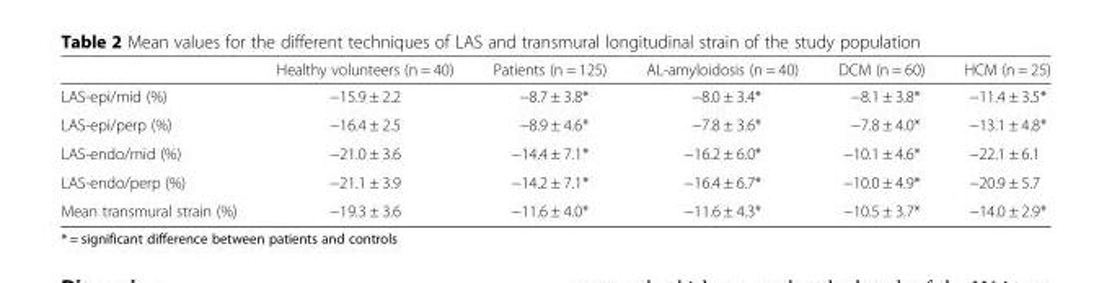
<table><thead><tr><td></td><td>Healthy volunteers (n = 40)</td><td>Patients (n = 125)</td><td>AL-amyloidosis (n = 40)</td><td>DCM (n = 60)</td><td>HCM (n = 25)</td></tr></thead><tbody><tr><td>LAS-epi/mid (%)</td><td>−15.9 ± 2.2</td><td>−8.7 ± 3.8*</td><td>−8.0 ± 3.4*</td><td>−8.1 ± 3.8*</td><td>−11.4 ± 3.5*</td></tr><tr><td>LAS-epi/perp (%)</td><td>−16.4 ± 2.5</td><td>−8.9 ± 4.6*</td><td>−7.8 ± 3.6*</td><td>−7.8 ± 4.0*</td><td>−13.1 ± 4.8*</td></tr><tr><td>LAS-endo/mid (%)</td><td>−21.0 ± 3.6</td><td>−14.4 ± 7.1*</td><td>−16.2 ± 6.0*</td><td>−10.1 ± 4.6*</td><td>−22.1 ± 6.1</td></tr><tr><td>LAS-endo/perp (%)</td><td>−21.1 ± 3.9</td><td>−14.2 ± 7.1*</td><td>−16.4 ± 6.7*</td><td>−10.0 ± 4.9*</td><td>−20.9 ± 5.7</td></tr><tr><td>Mean transmural strain (%)</td><td>−19.3 ± 3.6</td><td>−11.6 ± 4.0*</td><td>−11.6 ± 4.3*</td><td>−10.5 ± 3.7*</td><td>−14.0 ± 2.9*</td></tr></tbody></table>